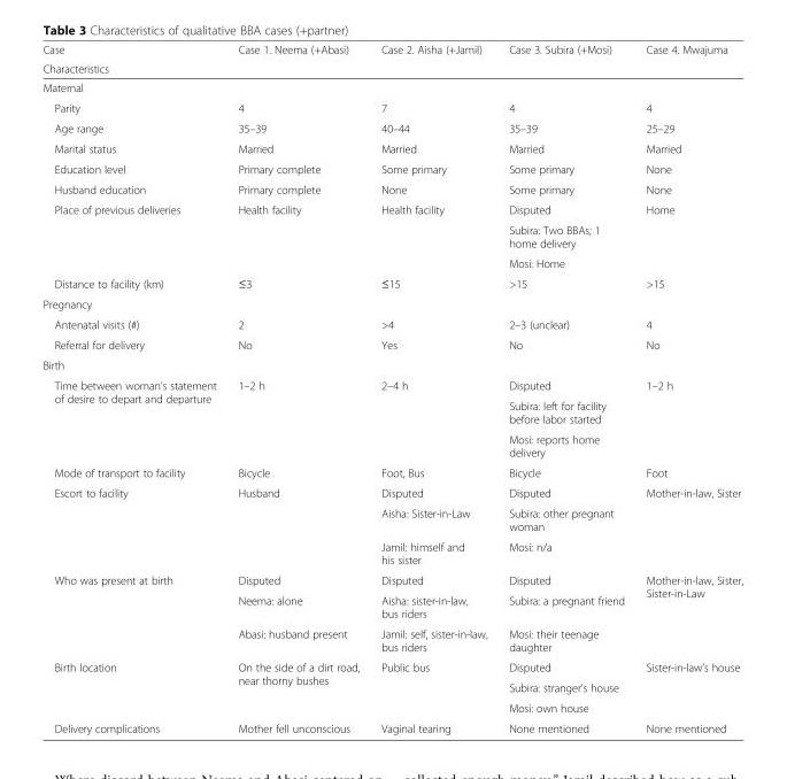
<table><thead><tr><td rowspan="2">Case Characteristics</td><td rowspan="2">Case 1. Neema (+Abasi)</td><td rowspan="2">Case 2. Aisha (+Jamil)</td><td rowspan="2">Case 3. Subira (+Mosi)</td><td rowspan="2">Case 4. Mwajuma</td></tr><tr></tr></thead><tbody><tr><td colspan="5">Maternal</td></tr><tr><td>Parity</td><td>4</td><td>7</td><td>4</td><td>4</td></tr><tr><td>Age range</td><td>35–39</td><td>40–44</td><td>35–39</td><td>25–29</td></tr><tr><td>Marital status</td><td>Married</td><td>Married</td><td>Married</td><td>Married</td></tr><tr><td>Education level</td><td>Primary complete</td><td>Some primary</td><td>Some primary</td><td>None</td></tr><tr><td>Husband education</td><td>Primary complete</td><td>None</td><td>Some primary</td><td>None</td></tr><tr><td rowspan="3">Place of previous deliveries</td><td rowspan="3">Health facility</td><td rowspan="3">Health facility</td><td>Disputed</td><td rowspan="3">Home</td></tr><tr><td>Subira: Two BBAs; 1 home delivery</td></tr><tr><td>Mosi: Home</td></tr><tr><td>Distance to facility (km)</td><td>≤3</td><td>≤15</td><td>&gt;15</td><td>&gt;15</td></tr><tr><td colspan="5">Pregnancy</td></tr><tr><td>Antenatal visits (#)</td><td>2</td><td>&gt;4</td><td>2–3 (unclear)</td><td>4</td></tr><tr><td>Referral for delivery</td><td>No</td><td>Yes</td><td>No</td><td>No</td></tr><tr><td colspan="5">Birth</td></tr><tr><td rowspan="3">Time between woman’s statement of desire to depart and departure</td><td rowspan="3">1–2 h</td><td rowspan="3">2–4 h</td><td>Disputed</td><td rowspan="3">1–2 h</td></tr><tr><td>Subira: left for facility before labor started</td></tr><tr><td>Mosi: reports home delivery</td></tr><tr><td>Mode of transport to facility</td><td>Bicycle</td><td>Foot, Bus</td><td>Bicycle</td><td>Foot</td></tr><tr><td rowspan="3">Escort to facility</td><td rowspan="3">Husband</td><td>Disputed</td><td>Disputed</td><td rowspan="3">Mother-in-law, Sister</td></tr><tr><td>Aisha: Sister-in-Law</td><td>Subira: other pregnant woman</td></tr><tr><td>Jamil: himself and his sister</td><td>Mosi: n/a</td></tr><tr><td rowspan="3">Who was present at birth</td><td>Disputed</td><td>Disputed</td><td>Disputed</td><td rowspan="3">Mother-in-law, Sister, Sister-in-Law</td></tr><tr><td>Neema: alone</td><td>Aisha: sister-in-law, bus riders</td><td>Subira: a pregnant friend</td></tr><tr><td>Abasi: husband present</td><td>Jamil: self, sister-in-law, bus riders</td><td>Mosi: their teenage daughter</td></tr><tr><td rowspan="3">Birth location</td><td rowspan="3">On the side of a dirt road, near thorny bushes</td><td rowspan="3">Public bus</td><td>Disputed</td><td rowspan="3">Sister-in-law’s house</td></tr><tr><td>Subira: stranger’s house</td></tr><tr><td>Mosi: own house</td></tr><tr><td>Delivery complications</td><td>Mother fell unconscious</td><td>Vaginal tearing</td><td>None mentioned</td><td>None mentioned</td></tr></tbody></table>